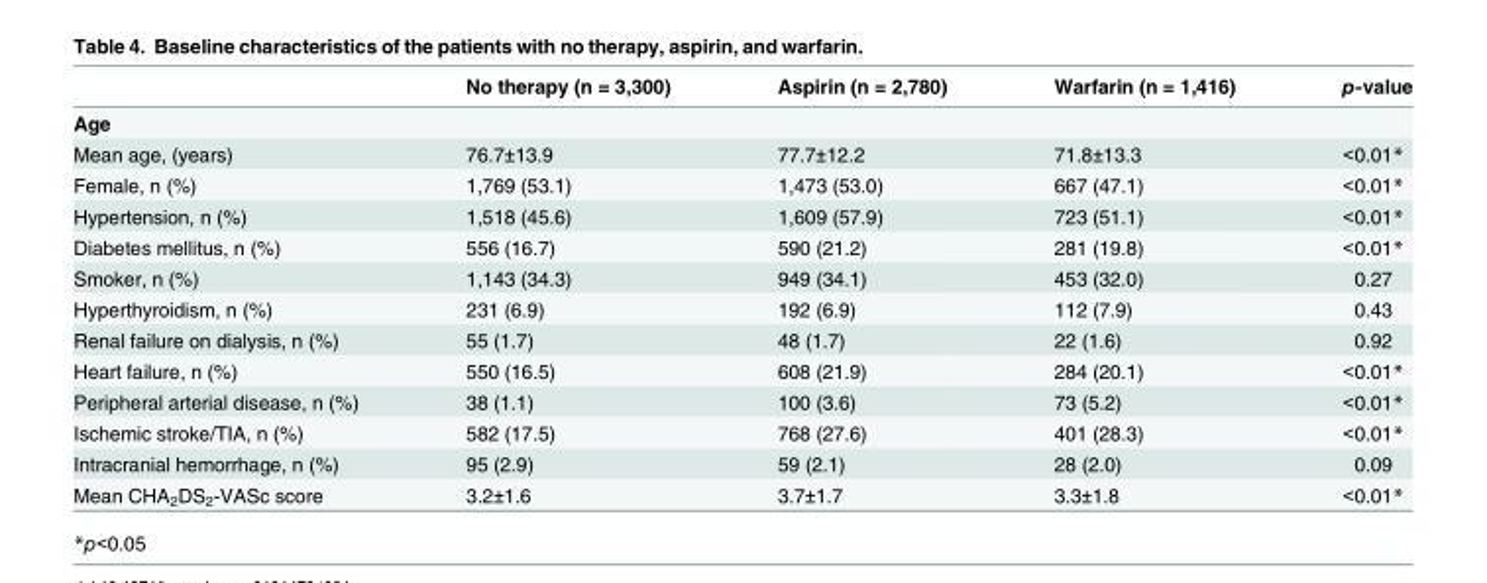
<table><thead><tr><td></td><td>No therapy (n = 3,300)</td><td>Aspirin (n = 2,780)</td><td>Warfarin (n = 1,416)</td><td>p-value</td></tr></thead><tbody><tr><td colspan="5">Age</td></tr><tr><td>Mean age, (years)</td><td>76.7±13.9</td><td>77.7±12.2</td><td>71.8±13.3</td><td>&lt;0.01*</td></tr><tr><td>Female, n (%)</td><td>1,769 (53.1)</td><td>1,473 (53.0)</td><td>667 (47.1)</td><td>&lt;0.01*</td></tr><tr><td>Hypertension, n (%)</td><td>1,518 (45.6)</td><td>1,609 (57.9)</td><td>723 (51.1)</td><td>&lt;0.01*</td></tr><tr><td>Diabetes mellitus, n (%)</td><td>556 (16.7)</td><td>590 (21.2)</td><td>281 (19.8)</td><td>&lt;0.01*</td></tr><tr><td>Smoker, n (%)</td><td>1,143 (34.3)</td><td>949 (34.1)</td><td>453 (32.0)</td><td>0.27</td></tr><tr><td>Hyperthyroidism, n (%)</td><td>231 (6.9)</td><td>192 (6.9)</td><td>112 (7.9)</td><td>0.43</td></tr><tr><td>Renal failure on dialysis, n (%)</td><td>55 (1.7)</td><td>48 (1.7)</td><td>22 (1.6)</td><td>0.92</td></tr><tr><td>Heart failure, n (%)</td><td>550 (16.5)</td><td>608 (21.9)</td><td>284 (20.1)</td><td>&lt;0.01*</td></tr><tr><td>Peripheral arterial disease, n (%)</td><td>38 (1.1)</td><td>100 (3.6)</td><td>73 (5.2)</td><td>&lt;0.01*</td></tr><tr><td>Ischemic stroke/TIA, n (%)</td><td>582 (17.5)</td><td>768 (27.6)</td><td>401 (28.3)</td><td>&lt;0.01*</td></tr><tr><td>Intracranial hemorrhage, n (%)</td><td>95 (2.9)</td><td>59 (2.1)</td><td>28 (2.0)</td><td>0.09</td></tr><tr><td>Mean CHA<sub>2</sub>DS<sub>2</sub>-VASc score</td><td>3.2±1.6</td><td>3.7±1.7</td><td>3.3±1.8</td><td>&lt;0.01*</td></tr></tbody></table>